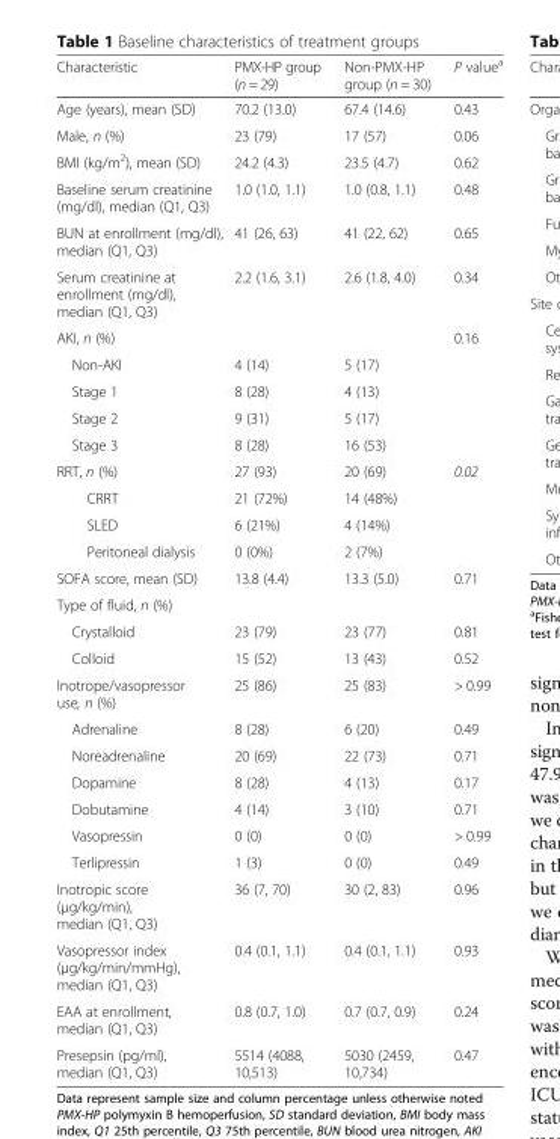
<table><thead><tr><td>Characteristic</td><td>PMX-HP group (n = 29)</td><td>Non-PMX-HP group (n = 30)</td><td>P value<sup>a</sup></td></tr></thead><tbody><tr><td>Age (years), mean (SD)</td><td>70.2 (13.0)</td><td>67.4 (14.6)</td><td>0.43</td></tr><tr><td>Male, n (%)</td><td>23 (79)</td><td>17 (57)</td><td>0.06</td></tr><tr><td>BMI (kg/m<sup>2</sup>), mean (SD)</td><td>24.2 (4.3)</td><td>23.5 (4.7)</td><td>0.62</td></tr><tr><td>Baseline serum creatinine (mg/dl), median (Q1, Q3)</td><td>1.0 (1.0, 1.1)</td><td>1.0 (0.8, 1.1)</td><td>0.48</td></tr><tr><td>BUN at enrollment (mg/dl), median (Q1, Q3)</td><td>41 (26, 63)</td><td>41 (22, 62)</td><td>0.65</td></tr><tr><td>Serum creatinine at enrollment (mg/dl), median (Q1, Q3)</td><td>2.2 (1.6, 3.1)</td><td>2.6 (1.8, 4.0)</td><td>0.34</td></tr><tr><td>AKI, n (%)</td><td></td><td></td><td>0.16</td></tr><tr><td>Non-AKI</td><td>4 (14)</td><td>5 (17)</td><td></td></tr><tr><td>Stage 1</td><td>8 (28)</td><td>4 (13)</td><td></td></tr><tr><td>Stage 2</td><td>9 (31)</td><td>5 (17)</td><td></td></tr><tr><td>Stage 3</td><td>8 (28)</td><td>16 (53)</td><td></td></tr><tr><td>RRT, n (%)</td><td>27 (93)</td><td>20 (69)</td><td>0.02</td></tr><tr><td>CRRT</td><td>21 (72%)</td><td>14 (48%)</td><td></td></tr><tr><td>SLED</td><td>6 (21%)</td><td>4 (14%)</td><td></td></tr><tr><td>Peritoneal dialysis</td><td>0 (0%)</td><td>2 (7%)</td><td></td></tr><tr><td>SOFA score, mean (SD)</td><td>13.8 (4.4)</td><td>13.3 (5.0)</td><td>0.71</td></tr><tr><td colspan="4">Type of fluid, n (%)</td></tr><tr><td>Crystalloid</td><td>23 (79)</td><td>23 (77)</td><td>0.81</td></tr><tr><td>Colloid</td><td>15 (52)</td><td>13 (43)</td><td>0.52</td></tr><tr><td>Inotrope/vasopressor use, n (%)</td><td>25 (86)</td><td>25 (83)</td><td>&gt; 0.99</td></tr><tr><td>Adrenaline</td><td>8 (28)</td><td>6 (20)</td><td>0.49</td></tr><tr><td>Noreadrenaline</td><td>20 (69)</td><td>22 (73)</td><td>0.71</td></tr><tr><td>Dopamine</td><td>8 (28)</td><td>4 (13)</td><td>0.17</td></tr><tr><td>Dobutamine</td><td>4 (14)</td><td>3 (10)</td><td>0.71</td></tr><tr><td>Vasopressin</td><td>0 (0)</td><td>0 (0)</td><td>&gt; 0.99</td></tr><tr><td>Terlipressin</td><td>1 (3)</td><td>0 (0)</td><td>0.49</td></tr><tr><td>Inotropic score (μg/kg/min), median (Q1, Q3)</td><td>36 (7, 70)</td><td>30 (2, 83)</td><td>0.96</td></tr><tr><td>Vasopressor index (μg/kg/min/mmHg), median (Q1, Q3)</td><td>0.4 (0.1, 1.1)</td><td>0.4 (0.1, 1.1)</td><td>0.93</td></tr><tr><td>EAA at enrollment, median (Q1, Q3)</td><td>0.8 (0.7, 1.0)</td><td>0.7 (0.7, 0.9)</td><td>0.24</td></tr><tr><td>Presepsin (pg/ml), median (Q1, Q3)</td><td>5514 (4088, 10,513)</td><td>5030 (2459, 10,734)</td><td>0.47</td></tr></tbody></table>